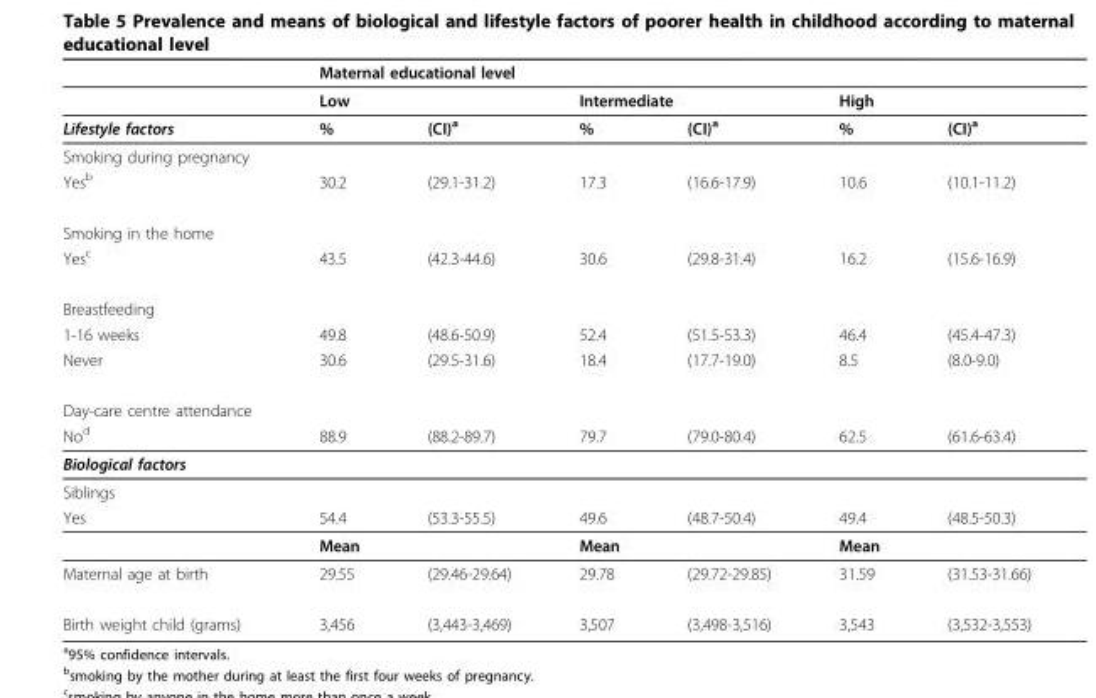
<table><thead><tr><td rowspan="3">Lifestyle factors</td><td colspan="6">Maternal educational level</td></tr><tr><td colspan="2">Low</td><td colspan="2">Intermediate</td><td colspan="2">High</td></tr><tr><td>%</td><td>(CI)<sup>a</sup></td><td>%</td><td>(CI)<sup>a</sup></td><td>%</td><td>(CI)<sup>a</sup></td></tr></thead><tbody><tr><td colspan="7">Smoking during pregnancy</td></tr><tr><td>Yes<sup>b</sup></td><td>30.2</td><td>(29.1-31.2)</td><td>17.3</td><td>(16.6-17.9)</td><td>10.6</td><td>(10.1-11.2)</td></tr><tr><td colspan="7">Smoking in the home</td></tr><tr><td>Yes<sup>c</sup></td><td>43.5</td><td>(42.3-44.6)</td><td>30.6</td><td>(29.8-31.4)</td><td>16.2</td><td>(15.6-16.9)</td></tr><tr><td colspan="7">Breastfeeding</td></tr><tr><td>1-16 weeks</td><td>49.8</td><td>(48.6-50.9)</td><td>52.4</td><td>(51.5-53.3)</td><td>46.4</td><td>(45.4-47.3)</td></tr><tr><td>Never</td><td>30.6</td><td>(29.5-31.6)</td><td>18.4</td><td>(17.7-19.0)</td><td>8.5</td><td>(8.0-9.0)</td></tr><tr><td colspan="7">Day-care centre attendance</td></tr><tr><td>No<sup>d</sup></td><td>88.9</td><td>(88.2-89.7)</td><td>79.7</td><td>(79.0-80.4)</td><td>62.5</td><td>(61.6-63.4)</td></tr><tr><td colspan="7">Biological factors</td></tr><tr><td colspan="7">Siblings</td></tr><tr><td rowspan="2">Yes</td><td>54.4</td><td>(53.3-55.5)</td><td>49.6</td><td>(48.7-50.4)</td><td>49.4</td><td>(48.5-50.3)</td></tr><tr><td>Mean</td><td></td><td>Mean</td><td></td><td>Mean</td><td></td></tr><tr><td>Maternal age at birth</td><td>29.55</td><td>(29.46-29.64)</td><td>29.78</td><td>(29.72-29.85)</td><td>31.59</td><td>(31.53-31.66)</td></tr><tr><td>Birth weight child (grams)</td><td>3,456</td><td>(3,443-3,469)</td><td>3,507</td><td>(3,498-3,516)</td><td>3,543</td><td>(3,532-3,553)</td></tr></tbody></table>